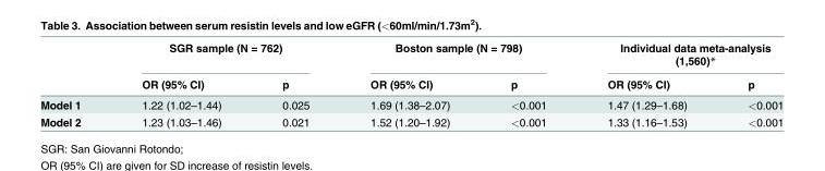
<table><thead><tr><td rowspan="2"></td><td colspan="2">SGR sample (N = 762)</td><td colspan="2">Boston sample (N = 798)</td><td colspan="2">Individual data meta-analysis (1,560)*</td></tr><tr><td>OR (95% CI)</td><td>p</td><td>OR (95% CI)</td><td>p</td><td>OR (95% CI)</td><td>p</td></tr></thead><tbody><tr><td>Model 1</td><td>1.22 (1.02–1.44)</td><td>0.025</td><td>1.69 (1.38–2.07)</td><td>&lt;0.001</td><td>1.47 (1.29–1.68)</td><td>&lt;0.001</td></tr><tr><td>Model 2</td><td>1.23 (1.03–1.46)</td><td>0.021</td><td>1.52 (1.20–1.92)</td><td>&lt;0.001</td><td>1.33 (1.16–1.53)</td><td>&lt;0.001</td></tr></tbody></table>